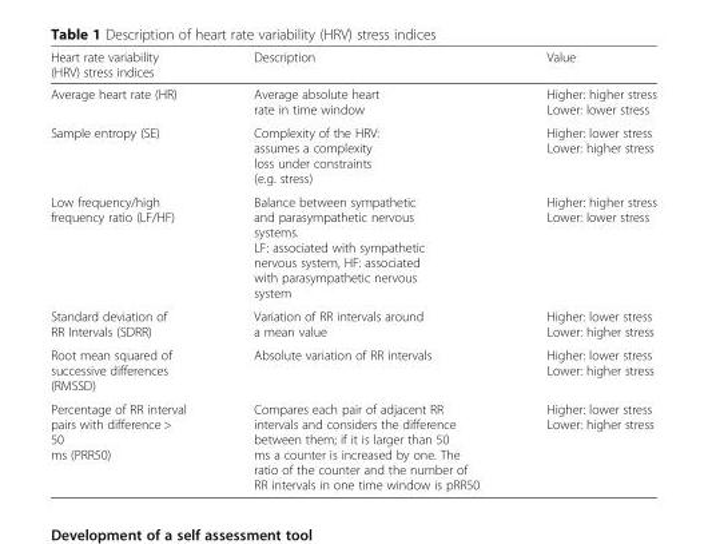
<table><thead><tr><td>Heart rate variability (HRV) stress indices</td><td>Description</td><td>Value</td></tr></thead><tbody><tr><td>Average heart rate (HR)</td><td>Average absolute heart rate in time window</td><td>Higher: higher stress Lower: lower stress</td></tr><tr><td>Sample entropy (SE)</td><td>Complexity of the HRV: assumes a complexity loss under constraints (e.g. stress)</td><td>Higher: lower stress Lower: higher stress</td></tr><tr><td>Low frequency/high frequency ratio (LF/HF)</td><td>Balance between sympathetic and parasympathetic nervous systems. LF: associated with sympathetic nervous system, HF: associated with parasympathetic nervous system</td><td>Higher: higher stress Lower: lower stress</td></tr><tr><td>Standard deviation of RR Intervals (SDRR)</td><td>Variation of RR intervals around a mean value</td><td>Higher: lower stress Lower: higher stress</td></tr><tr><td>Root mean squared of successive differences (RMSSD)</td><td>Absolute variation of RR intervals</td><td>Higher: lower stress Lower: higher stress</td></tr><tr><td>Percentage of RR interval pairs with difference &gt; 50 ms (PRR50)</td><td>Compares each pair of adjacent RR intervals and considers the difference between them; if it is larger than 50 ms a counter is increased by one. The ratio of the counter and the number of RR intervals in one time window is pRR50</td><td>Higher: lower stress Lower: higher stress</td></tr></tbody></table>